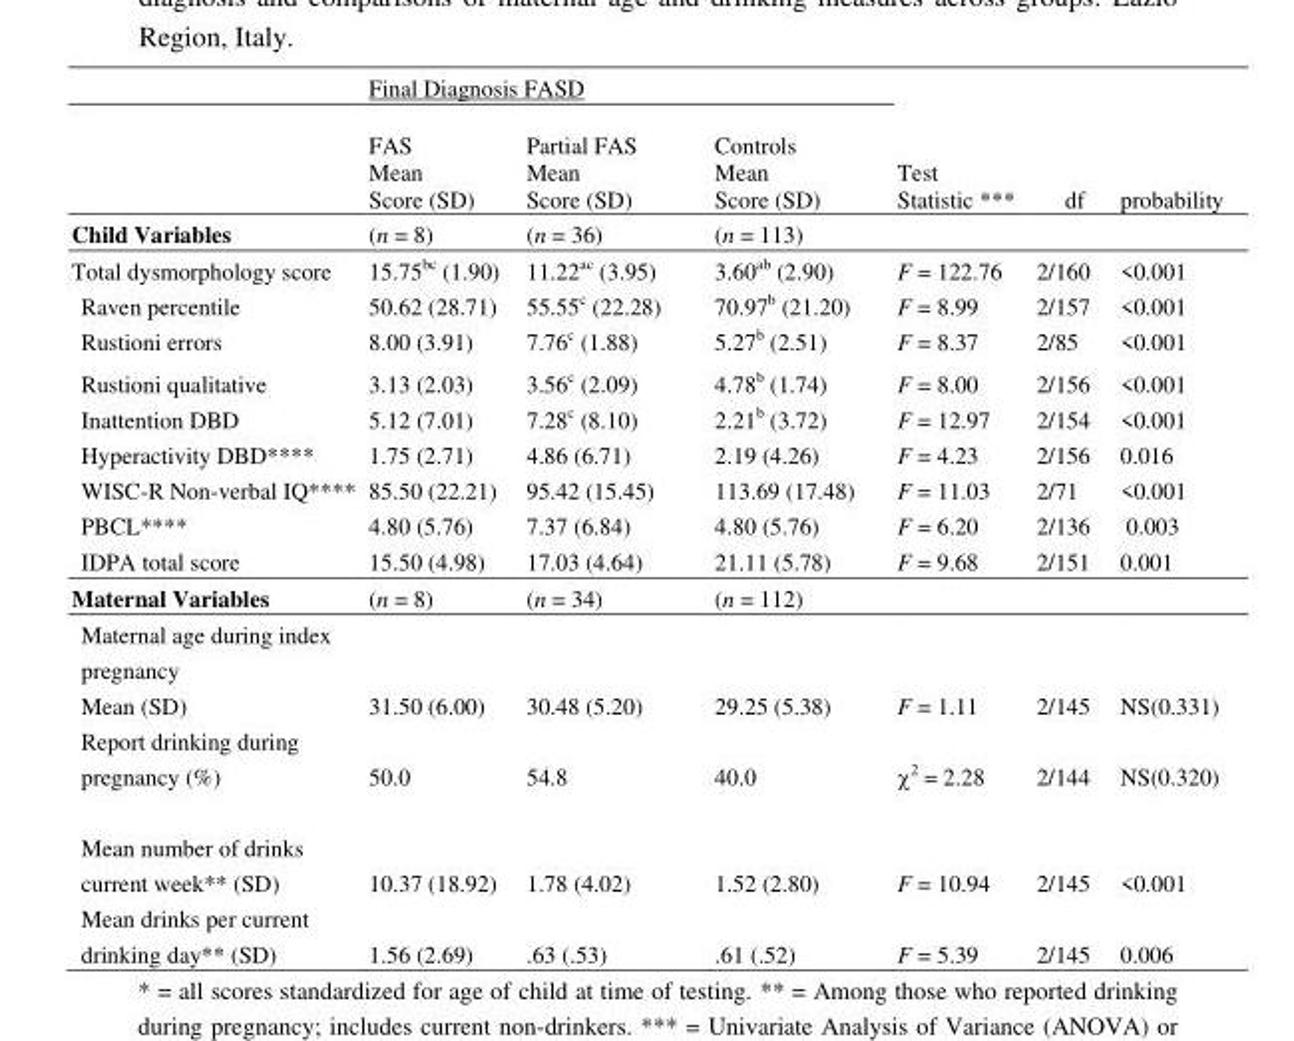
<table><thead><tr><td rowspan="2"></td><td colspan="3">Final Diagnosis FASD</td><td rowspan="2">Test Statistic ***</td><td rowspan="2">df</td><td rowspan="2">probability</td></tr><tr><td>FAS Mean Score (SD)</td><td>Partial FAS Mean Score (SD)</td><td>Controls Mean Score (SD)</td></tr></thead><tbody><tr><td>Child Variables</td><td>(n = 8)</td><td>(n = 36)</td><td>(n = 113)</td><td></td><td></td><td></td></tr><tr><td>Total dysmorphology score</td><td>15.75<sup>bc</sup> (1.90)</td><td>11.22<sup>ac</sup> (3.95)</td><td>3.60<sup>ab</sup> (2.90)</td><td>F = 122.76</td><td>2/160</td><td>&lt;0.001</td></tr><tr><td>Raven percentile</td><td>50.62 (28.71)</td><td>55.55<sup>c</sup> (22.28)</td><td>70.97<sup>b</sup> (21.20)</td><td>F = 8.99</td><td>2/157</td><td>&lt;0.001</td></tr><tr><td>Rustioni errors</td><td>8.00 (3.91)</td><td>7.76<sup>c</sup> (1.88)</td><td>5.27<sup>b</sup> (2.51)</td><td>F = 8.37</td><td>2/85</td><td>&lt;0.001</td></tr><tr><td>Rustioni qualitative</td><td>3.13 (2.03)</td><td>3.56<sup>c</sup> (2.09)</td><td>4.78<sup>b</sup> (1.74)</td><td>F = 8.00</td><td>2/156</td><td>&lt;0.001</td></tr><tr><td>Inattention DBD</td><td>5.12 (7.01)</td><td>7.28<sup>c</sup> (8.10)</td><td>2.21<sup>b</sup> (3.72)</td><td>F = 12.97</td><td>2/154</td><td>&lt;0.001</td></tr><tr><td>Hyperactivity DBD****</td><td>1.75 (2.71)</td><td>4.86 (6.71)</td><td>2.19 (4.26)</td><td>F = 4.23</td><td>2/156</td><td>0.016</td></tr><tr><td>WISC-R Non-verbal IQ****</td><td>85.50 (22.21)</td><td>95.42 (15.45)</td><td>113.69 (17.48)</td><td>F = 11.03</td><td>2/71</td><td>&lt;0.001</td></tr><tr><td>PBCL****</td><td>4.80 (5.76)</td><td>7.37 (6.84)</td><td>4.80 (5.76)</td><td>F = 6.20</td><td>2/136</td><td>0.003</td></tr><tr><td>IDPA total score</td><td>15.50 (4.98)</td><td>17.03 (4.64)</td><td>21.11 (5.78)</td><td>F = 9.68</td><td>2/151</td><td>0.001</td></tr><tr><td>Maternal Variables</td><td>(n = 8)</td><td>(n = 34)</td><td>(n = 112)</td><td></td><td></td><td></td></tr><tr><td colspan="7">Maternal age during index pregnancy</td></tr><tr><td>Mean (SD)</td><td>31.50 (6.00)</td><td>30.48 (5.20)</td><td>29.25 (5.38)</td><td>F = 1.11</td><td>2/145</td><td>NS(0.331)</td></tr><tr><td>Report drinking during pregnancy (%)</td><td>50.0</td><td>54.8</td><td>40.0</td><td>χ<sup>2</sup> = 2.28</td><td>2/144</td><td>NS(0.320)</td></tr><tr><td>Mean number of drinks current week** (SD)</td><td>10.37 (18.92)</td><td>1.78 (4.02)</td><td>1.52 (2.80)</td><td>F = 10.94</td><td>2/145</td><td>&lt;0.001</td></tr><tr><td>Mean drinks per current drinking day** (SD)</td><td>1.56 (2.69)</td><td>.63 (.53)</td><td>.61 (.52)</td><td>F = 5.39</td><td>2/145</td><td>0.006</td></tr></tbody></table>